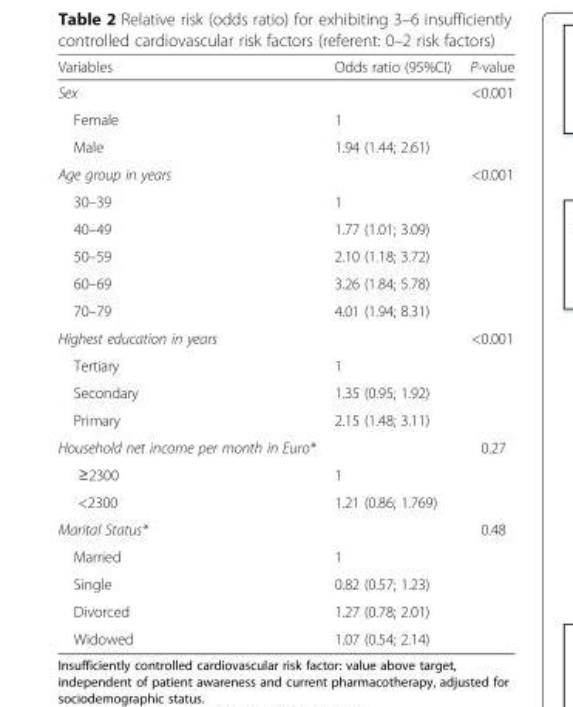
<table><thead><tr><td>Variables</td><td>Odds ratio (95%CI)</td><td>P-value</td></tr></thead><tbody><tr><td>Sex</td><td></td><td>&lt;0.001</td></tr><tr><td>Female</td><td>1</td><td></td></tr><tr><td>Male</td><td>1.94 (1.44; 2.61)</td><td></td></tr><tr><td colspan="2">Age group in years</td><td>&lt;0.001</td></tr><tr><td>30–39</td><td>1</td><td></td></tr><tr><td>40–49</td><td>1.77 (1.01; 3.09)</td><td></td></tr><tr><td>50–59</td><td>2.10 (1.18; 3.72)</td><td></td></tr><tr><td>60–69</td><td>3.26 (1.84; 5.78)</td><td></td></tr><tr><td>70–79</td><td>4.01 (1.94; 8.31)</td><td></td></tr><tr><td>Highest education in years</td><td></td><td>&lt;0.001</td></tr><tr><td>Tertiary</td><td>1</td><td></td></tr><tr><td>Secondary</td><td>1.35 (0.95; 1.92)</td><td></td></tr><tr><td>Primary</td><td>2.15 (1.48; 3.11)</td><td></td></tr><tr><td>Household net income per month in Euro*</td><td></td><td>0.27</td></tr><tr><td>≥2300</td><td>1</td><td></td></tr><tr><td>&lt;2300</td><td>1.21 (0.86; 1.769)</td><td></td></tr><tr><td>Marital Status*</td><td></td><td>0.48</td></tr><tr><td>Married</td><td>1</td><td></td></tr><tr><td>Single</td><td>0.82 (0.57; 1.23)</td><td></td></tr><tr><td>Divorced</td><td>1.27 (0.78; 2.01)</td><td></td></tr><tr><td>Widowed</td><td>1.07 (0.54; 2.14)</td><td></td></tr></tbody></table>